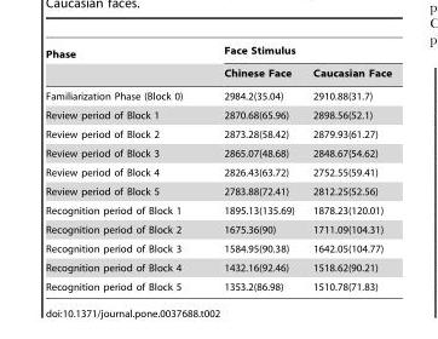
<table><thead><tr><td rowspan="2">Phase</td><td colspan="2">Face Stimulus</td></tr><tr><td>Chinese Face</td><td>Caucasian Face</td></tr></thead><tbody><tr><td>Familiarization Phase (Block 0)</td><td>2984.2(35.04)</td><td>2910.88(31.7)</td></tr><tr><td>Review period of Block 1</td><td>2870.68(65.96)</td><td>2898.56(52.1)</td></tr><tr><td>Review period of Block 2</td><td>2873.28(58.42)</td><td>2879.93(61.27)</td></tr><tr><td>Review period of Block 3</td><td>2865.07(48.68)</td><td>2848.67(54.62)</td></tr><tr><td>Review period of Block 4</td><td>2826.43(63.72)</td><td>2752.55(59.41)</td></tr><tr><td>Review period of Block 5</td><td>2783.88(72.41)</td><td>2812.25(52.56)</td></tr><tr><td>Recognition period of Block 1</td><td>1895.13(135.69)</td><td>1878.23(120.01)</td></tr><tr><td>Recognition period of Block 2</td><td>1675.36(90)</td><td>1711.09(104.31)</td></tr><tr><td>Recognition period of Block 3</td><td>1584.95(90.38)</td><td>1642.05(104.77)</td></tr><tr><td>Recognition period of Block 4</td><td>1432.16(92.46)</td><td>1518.62(90.21)</td></tr><tr><td>Recognition period of Block 5</td><td>1353.2(86.98)</td><td>1510.78(71.83)</td></tr></tbody></table>